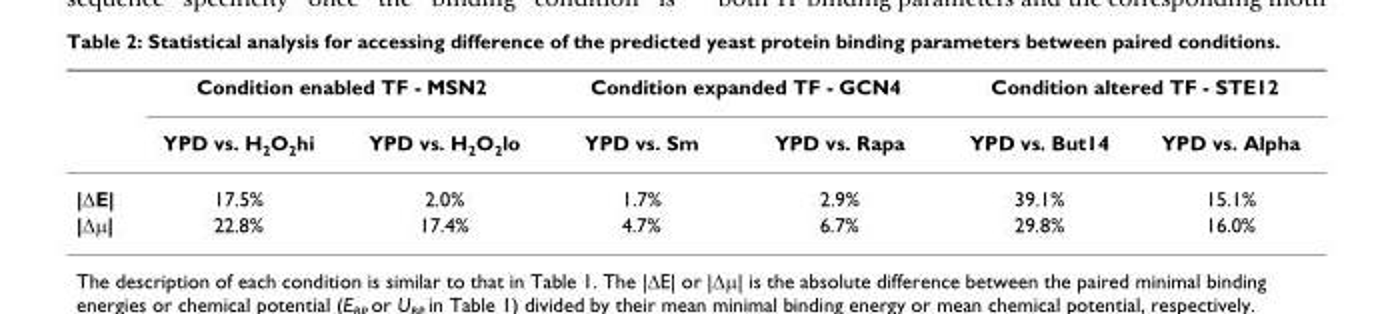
<table><thead><tr><td rowspan="2"></td><td colspan="2">Condition enabled TF - MSN2</td><td colspan="2">Condition expanded TF - GCN4</td><td colspan="2">Condition altered TF - STE12</td></tr><tr><td>YPD vs. H<sub>2</sub>O<sub>2</sub>hi</td><td>YPD vs. H<sub>2</sub>O<sub>2</sub>lo</td><td>YPD vs. Sm</td><td>YPD vs. Rapa</td><td>YPD vs. But14</td><td>YPD vs. Alpha</td></tr></thead><tbody><tr><td>|ΔE|</td><td>17.5%</td><td>2.0%</td><td>1.7%</td><td>2.9%</td><td>39.1%</td><td>15.1%</td></tr><tr><td>|Δμ|</td><td>22.8%</td><td>17.4%</td><td>4.7%</td><td>6.7%</td><td>29.8%</td><td>16.0%</td></tr></tbody></table>